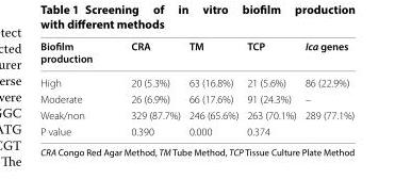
<table><thead><tr><td>Biofilm production</td><td>CRA</td><td>TM</td><td>TCP</td><td>Ica genes</td></tr></thead><tbody><tr><td>High</td><td>20 (5.3%)</td><td>63 (16.8%)</td><td>21 (5.6%)</td><td>86 (22.9%)</td></tr><tr><td>Moderate</td><td>26 (6.9%)</td><td>66 (17.6%)</td><td>91 (24.3%)</td><td>–</td></tr><tr><td>Weak/non</td><td>329 (87.7%)</td><td>246 (65.6%)</td><td>263 (70.1%)</td><td>289 (77.1%)</td></tr><tr><td>P value</td><td>0.390</td><td>0.000</td><td>0.374</td><td></td></tr></tbody></table>